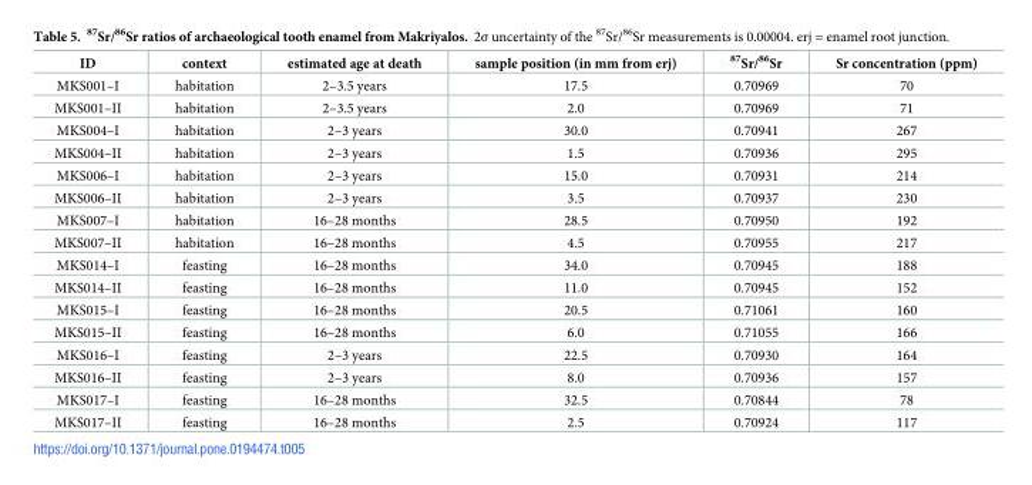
<table><thead><tr><td>ID</td><td>context</td><td>estimated age at death</td><td>sample position (in mm from erj)</td><td><sup>87</sup>Sr/<sup>86</sup>Sr</td><td>Sr concentration (ppm)</td></tr></thead><tbody><tr><td>MKS001–I</td><td>habitation</td><td>2–3.5 years</td><td>17.5</td><td>0.70969</td><td>70</td></tr><tr><td>MKS001–II</td><td>habitation</td><td>2–3.5 years</td><td>2.0</td><td>0.70969</td><td>71</td></tr><tr><td>MKS004–I</td><td>habitation</td><td>2–3 years</td><td>30.0</td><td>0.70941</td><td>267</td></tr><tr><td>MKS004–II</td><td>habitation</td><td>2–3 years</td><td>1.5</td><td>0.70936</td><td>295</td></tr><tr><td>MKS006–I</td><td>habitation</td><td>2–3 years</td><td>15.0</td><td>0.70931</td><td>214</td></tr><tr><td>MKS006–II</td><td>habitation</td><td>2–3 years</td><td>3.5</td><td>0.70937</td><td>230</td></tr><tr><td>MKS007–I</td><td>habitation</td><td>16–28 months</td><td>28.5</td><td>0.70950</td><td>192</td></tr><tr><td>MKS007–II</td><td>habitation</td><td>16–28 months</td><td>4.5</td><td>0.70955</td><td>217</td></tr><tr><td>MKS014–I</td><td>feasting</td><td>16–28 months</td><td>34.0</td><td>0.70945</td><td>188</td></tr><tr><td>MKS014–II</td><td>feasting</td><td>16–28 months</td><td>11.0</td><td>0.70945</td><td>152</td></tr><tr><td>MKS015–I</td><td>feasting</td><td>16–28 months</td><td>20.5</td><td>0.71061</td><td>160</td></tr><tr><td>MKS015–II</td><td>feasting</td><td>16–28 months</td><td>6.0</td><td>0.71055</td><td>166</td></tr><tr><td>MKS016–I</td><td>feasting</td><td>2–3 years</td><td>22.5</td><td>0.70930</td><td>164</td></tr><tr><td>MKS016–II</td><td>feasting</td><td>2–3 years</td><td>8.0</td><td>0.70936</td><td>157</td></tr><tr><td>MKS017–I</td><td>feasting</td><td>16–28 months</td><td>32.5</td><td>0.70844</td><td>78</td></tr><tr><td>MKS017–II</td><td>feasting</td><td>16–28 months</td><td>2.5</td><td>0.70924</td><td>117</td></tr></tbody></table>